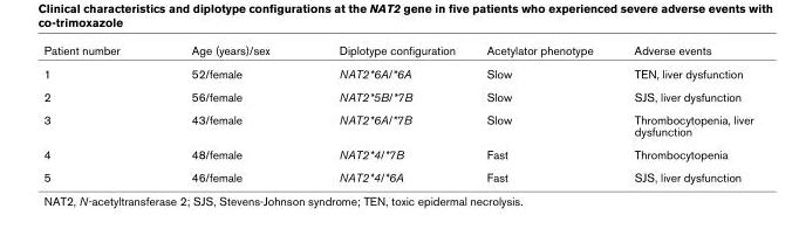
<table><thead><tr><td>Patient number</td><td>Age (years)/sex</td><td>Diplotype configuration</td><td>Acetylator phenotype</td><td>Adverse events</td></tr></thead><tbody><tr><td>1</td><td>52/female</td><td>NAT2*6A/*6A</td><td>Slow</td><td>TEN, liver dysfunction</td></tr><tr><td>2</td><td>56/female</td><td>NAT2*5B/*7B</td><td>Slow</td><td>SJS, liver dysfunction</td></tr><tr><td>3</td><td>43/female</td><td>NAT2*6A/*7B</td><td>Slow</td><td>Thrombocytopenia, liver dysfunction</td></tr><tr><td>4</td><td>48/female</td><td>NAT2*4/*7B</td><td>Fast</td><td>Thrombocytopenia</td></tr><tr><td>5</td><td>46/female</td><td>NAT2*4/*6A</td><td>Fast</td><td>SJS, liver dysfunction</td></tr></tbody></table>